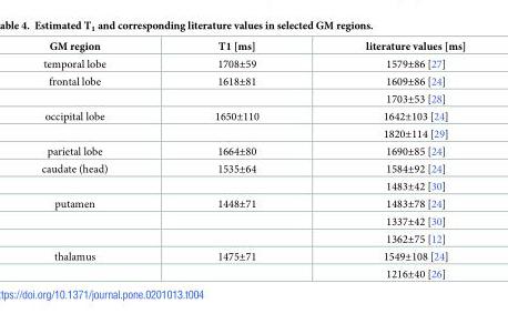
<table><thead><tr><td>GM region</td><td>T1 [ms]</td><td>literature values [ms]</td></tr></thead><tbody><tr><td>temporal lobe</td><td>1708±59</td><td>1579±86 [27]</td></tr><tr><td rowspan="2">frontal lobe</td><td>1618±81</td><td>1609±86 [24]</td></tr><tr><td></td><td>1703±53 [28]</td></tr><tr><td rowspan="2">occipital lobe</td><td>1650±110</td><td>1642±103 [24]</td></tr><tr><td></td><td>1820±114 [29]</td></tr><tr><td>parietal lobe</td><td>1664±80</td><td>1690±85 [24]</td></tr><tr><td rowspan="2">caudate (head)</td><td>1535±64</td><td>1584±92 [24]</td></tr><tr><td></td><td>1483±42 [30]</td></tr><tr><td rowspan="3">putamen</td><td>1448±71</td><td>1483±78 [24]</td></tr><tr><td></td><td>1337±42 [30]</td></tr><tr><td></td><td>1362±75 [12]</td></tr><tr><td rowspan="2">thalamus</td><td>1475±71</td><td>1549±108 [24]</td></tr><tr><td></td><td>1216±40 [26]</td></tr></tbody></table>